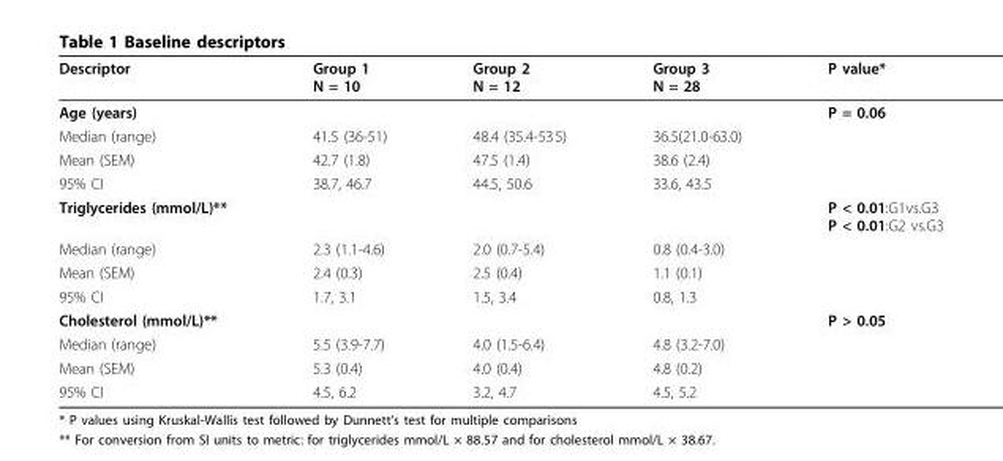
<table><thead><tr><td>Descriptor</td><td>Group 1 N = 10</td><td>Group 2 N = 12</td><td>Group 3 N = 28</td><td>P value*</td></tr></thead><tbody><tr><td>Age (years)</td><td></td><td></td><td></td><td>P = 0.06</td></tr><tr><td>Median (range)</td><td>41.5 (36-51)</td><td>48.4 (35.4-53<sup>.</sup>5)</td><td>36.5(21.0-63.0)</td><td></td></tr><tr><td>Mean (SEM)</td><td>42.7 (1.8)</td><td>47.5 (1.4)</td><td>38.6 (2.4)</td><td></td></tr><tr><td>95% CI</td><td>38.7, 46.7</td><td>44.5, 50.6</td><td>33.6, 43.5</td><td></td></tr><tr><td>Triglycerides (mmol/L)**</td><td></td><td></td><td></td><td>P &lt; 0.01:G1vs.G3 P &lt; 0.01:G2 vs.G3</td></tr><tr><td>Median (range)</td><td>2.3 (1.1-4.6)</td><td>2.0 (0.7-5.4)</td><td>0.8 (0.4-3.0)</td><td></td></tr><tr><td>Mean (SEM)</td><td>2.4 (0.3)</td><td>2.5 (0.4)</td><td>1.1 (0.1)</td><td></td></tr><tr><td>95% CI</td><td>1.7, 3.1</td><td>1.5, 3.4</td><td>0.8, 1.3</td><td></td></tr><tr><td>Cholesterol (mmol/L)**</td><td></td><td></td><td></td><td>P &gt; 0.05</td></tr><tr><td>Median (range)</td><td>5.5 (3.9-7.7)</td><td>4.0 (1.5-6.4)</td><td>4.8 (3.2-7.0)</td><td></td></tr><tr><td>Mean (SEM)</td><td>5.3 (0.4)</td><td>4.0 (0.4)</td><td>4.8 (0.2)</td><td></td></tr><tr><td>95% CI</td><td>4.5, 6.2</td><td>3.2, 4.7</td><td>4.5, 5.2</td><td></td></tr></tbody></table>